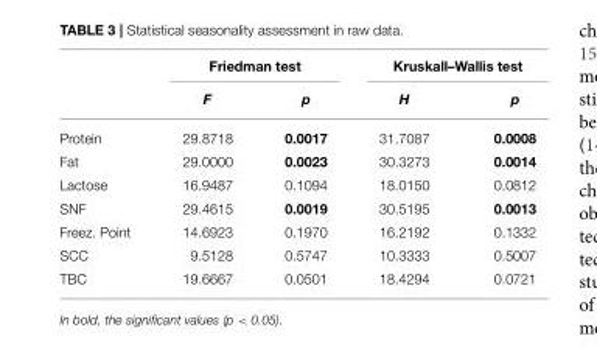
<table><thead><tr><td rowspan="2"></td><td colspan="2">Friedman test</td><td colspan="2">Kruskall–Wallis test</td></tr><tr><td>F</td><td>p</td><td>H</td><td>p</td></tr></thead><tbody><tr><td>Protein</td><td>29.8718</td><td>0.0017</td><td>31.7087</td><td>0.0008</td></tr><tr><td>Fat</td><td>29.0000</td><td>0.0023</td><td>30.3273</td><td>0.0014</td></tr><tr><td>Lactose</td><td>16.9487</td><td>0.1094</td><td>18.0150</td><td>0.0812</td></tr><tr><td>SNF</td><td>29.4615</td><td>0.0019</td><td>30.5195</td><td>0.0013</td></tr><tr><td>Freez. Point</td><td>14.6923</td><td>0.1970</td><td>16.2192</td><td>0.1332</td></tr><tr><td>SCC</td><td>9.5128</td><td>0.5747</td><td>10.3333</td><td>0.5007</td></tr><tr><td>TBC</td><td>19.6667</td><td>0.0501</td><td>18.4294</td><td>0.0721</td></tr></tbody></table>